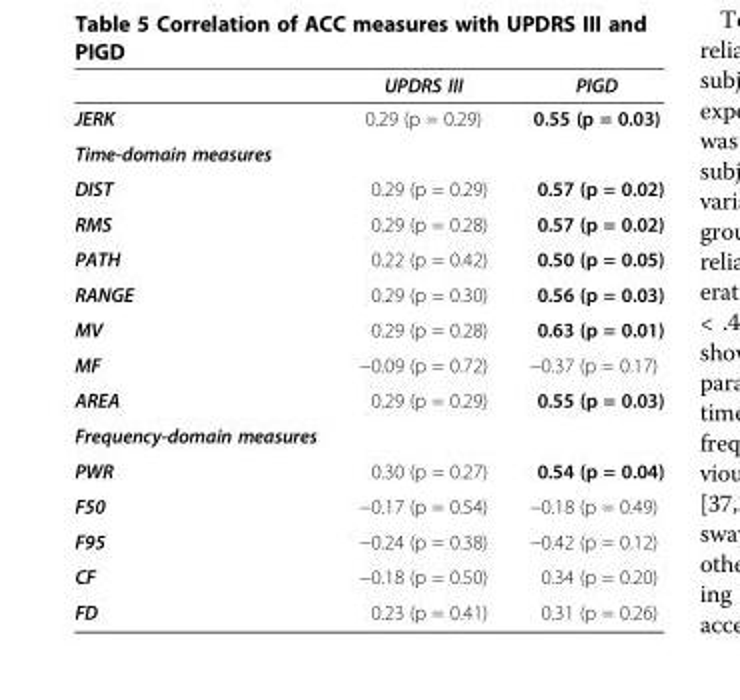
<table><thead><tr><td></td><td>UPDRS III</td><td>PIGD</td></tr></thead><tbody><tr><td>JERK</td><td>0.29 (p = 0.29)</td><td>0.55 (p = 0.03)</td></tr><tr><td colspan="3">Time-domain measures</td></tr><tr><td>DIST</td><td>0.29 (p = 0.29)</td><td>0.57 (p = 0.02)</td></tr><tr><td>RMS</td><td>0.29 (p = 0.28)</td><td>0.57 (p = 0.02)</td></tr><tr><td>PATH</td><td>0.22 (p = 0.42)</td><td>0.50 (p = 0.05)</td></tr><tr><td>RANGE</td><td>0.29 (p = 0.30)</td><td>0.56 (p = 0.03)</td></tr><tr><td>MV</td><td>0.29 (p = 0.28)</td><td>0.63 (p = 0.01)</td></tr><tr><td>MF</td><td>−0.09 (p = 0.72)</td><td>−0.37 (p = 0.17)</td></tr><tr><td>AREA</td><td>0.29 (p = 0.29)</td><td>0.55 (p = 0.03)</td></tr><tr><td colspan="3">Frequency-domain measures</td></tr><tr><td>PWR</td><td>0.30 (p = 0.27)</td><td>0.54 (p = 0.04)</td></tr><tr><td>F50</td><td>−0.17 (p = 0.54)</td><td>−0.18 (p = 0.49)</td></tr><tr><td>F95</td><td>−0.24 (p = 0.38)</td><td>−0.42 (p = 0.12)</td></tr><tr><td>CF</td><td>−0.18 (p = 0.50)</td><td>0.34 (p = 0.20)</td></tr><tr><td>FD</td><td>0.23 (p = 0.41)</td><td>0.31 (p = 0.26)</td></tr></tbody></table>